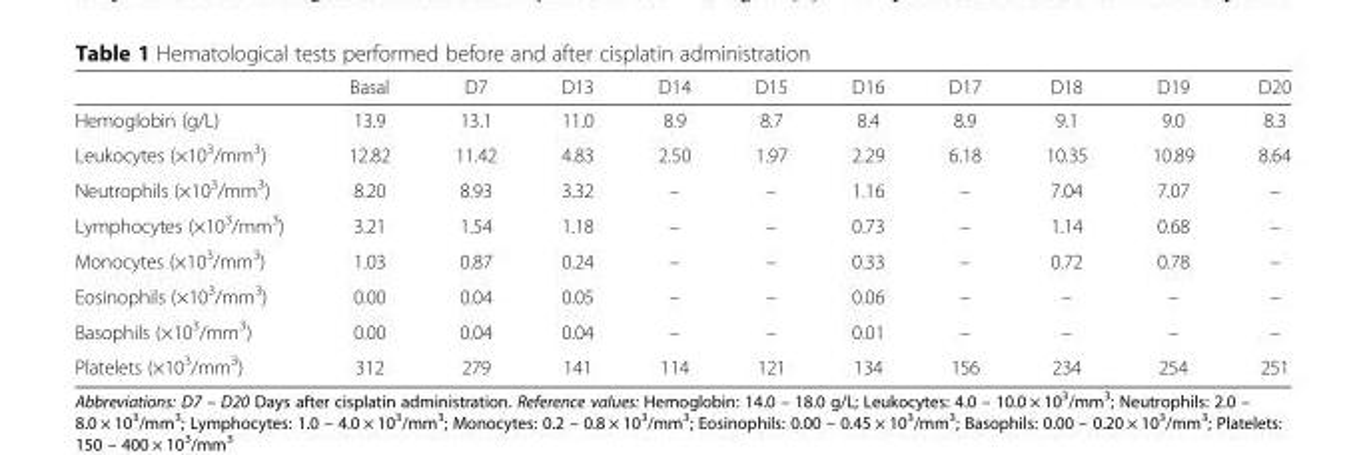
<table><thead><tr><td></td><td>Basal</td><td>D7</td><td>D13</td><td>D14</td><td>D15</td><td>D16</td><td>D17</td><td>D18</td><td>D19</td><td>D20</td></tr></thead><tbody><tr><td>Hemoglobin (g/L)</td><td>13.9</td><td>13.1</td><td>11.0</td><td>8.9</td><td>8.7</td><td>8.4</td><td>8.9</td><td>9.1</td><td>9.0</td><td>8.3</td></tr><tr><td>Leukocytes (×10<sup>3</sup>/mm<sup>3</sup>)</td><td>12.82</td><td>11.42</td><td>4.83</td><td>2.50</td><td>1.97</td><td>2.29</td><td>6.18</td><td>10.35</td><td>10.89</td><td>8.64</td></tr><tr><td>Neutrophils (×10<sup>3</sup>/mm<sup>3</sup>)</td><td>8.20</td><td>8.93</td><td>3.32</td><td>–</td><td>–</td><td>1.16</td><td>–</td><td>7.04</td><td>7.07</td><td>–</td></tr><tr><td>Lymphocytes (×10<sup>3</sup>/mm<sup>3</sup>)</td><td>3.21</td><td>1.54</td><td>1.18</td><td>–</td><td>–</td><td>0.73</td><td>–</td><td>1.14</td><td>0.68</td><td>–</td></tr><tr><td>Monocytes (×10<sup>3</sup>/mm<sup>3</sup>)</td><td>1.03</td><td>0.87</td><td>0.24</td><td>–</td><td>–</td><td>0.33</td><td>–</td><td>0.72</td><td>0.78</td><td>–</td></tr><tr><td>Eosinophils (×10<sup>3</sup>/mm<sup>3</sup>)</td><td>0.00</td><td>0.04</td><td>0.05</td><td>–</td><td>–</td><td>0.06</td><td>–</td><td>–</td><td>–</td><td>–</td></tr><tr><td>Basophils (×10<sup>3</sup>/mm<sup>3</sup>)</td><td>0.00</td><td>0.04</td><td>0.04</td><td>–</td><td>–</td><td>0.01</td><td>–</td><td>–</td><td>–</td><td>–</td></tr><tr><td>Platelets (×10<sup>3</sup>/mm<sup>3</sup>)</td><td>312</td><td>279</td><td>141</td><td>114</td><td>121</td><td>134</td><td>156</td><td>234</td><td>254</td><td>251</td></tr></tbody></table>